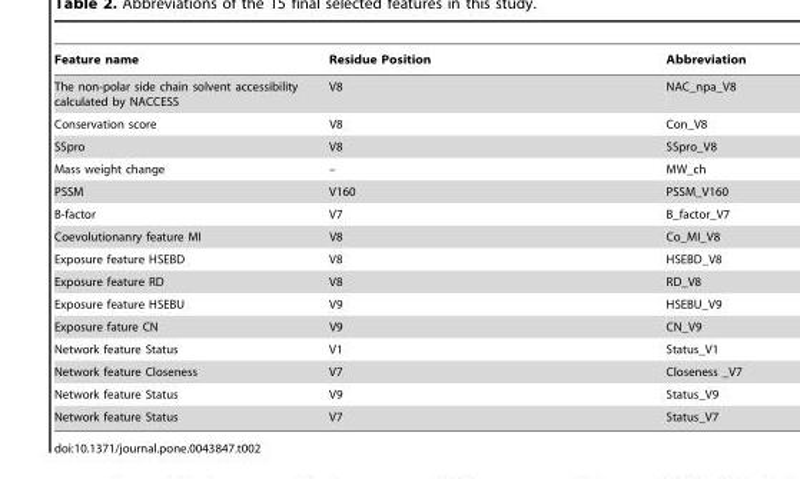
<table><thead><tr><td>Feature name</td><td>Residue Position</td><td>Abbreviation</td></tr></thead><tbody><tr><td>The non-polar side chain solvent accessibility calculated by NACCESS</td><td>V8</td><td>NAC_npa_V8</td></tr><tr><td>Conservation score</td><td>V8</td><td>Con_V8</td></tr><tr><td>SSpro</td><td>V8</td><td>SSpro_V8</td></tr><tr><td>Mass weight change</td><td>–</td><td>MW_ch</td></tr><tr><td>PSSM</td><td>V160</td><td>PSSM_V160</td></tr><tr><td>B-factor</td><td>V7</td><td>B_factor_V7</td></tr><tr><td>Coevolutionanry feature MI</td><td>V8</td><td>Co_MI_V8</td></tr><tr><td>Exposure feature HSEBD</td><td>V8</td><td>HSEBD_V8</td></tr><tr><td>Exposure feature RD</td><td>V8</td><td>RD_V8</td></tr><tr><td>Exposure feature HSEBU</td><td>V9</td><td>HSEBU_V9</td></tr><tr><td>Exposure fature CN</td><td>V9</td><td>CN_V9</td></tr><tr><td>Network feature Status</td><td>V1</td><td>Status_V1</td></tr><tr><td>Network feature Closeness</td><td>V7</td><td>Closeness _V7</td></tr><tr><td>Network feature Status</td><td>V9</td><td>Status_V9</td></tr><tr><td>Network feature Status</td><td>V7</td><td>Status_V7</td></tr></tbody></table>